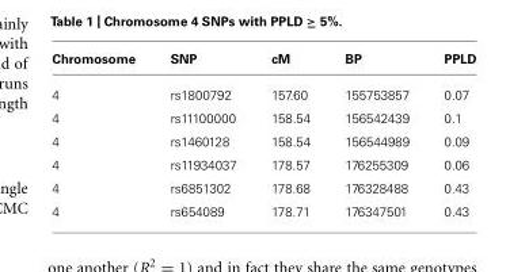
<table><thead><tr><td>Chromosome</td><td>SNP</td><td>cM</td><td>BP</td><td>PPLD</td></tr></thead><tbody><tr><td>4</td><td>rs1800792</td><td>157.60</td><td>155753857</td><td>0.07</td></tr><tr><td>4</td><td>rs11100000</td><td>158.54</td><td>156542439</td><td>0.1</td></tr><tr><td>4</td><td>rs1460128</td><td>158.54</td><td>156544989</td><td>0.09</td></tr><tr><td>4</td><td>rs11934037</td><td>178.57</td><td>176255309</td><td>0.06</td></tr><tr><td>4</td><td>rs6851302</td><td>178.68</td><td>176328488</td><td>0.43</td></tr><tr><td>4</td><td>rs654089</td><td>178.71</td><td>176347501</td><td>0.43</td></tr></tbody></table>